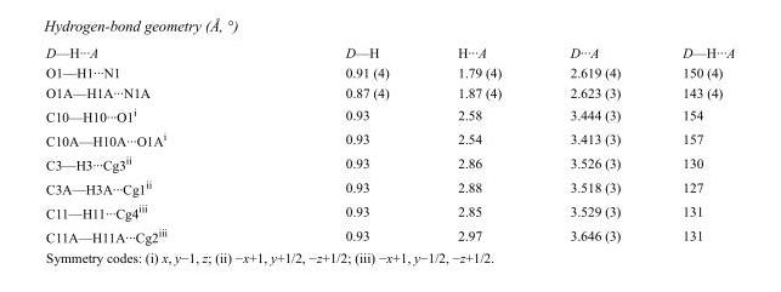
<table><tbody><tr><td>D—H···A</td><td>D—H</td><td>H···A</td><td>D···A</td><td>D—H···A</td></tr><tr><td>O1—H1···N1</td><td>0.91 (4)</td><td>1.79 (4)</td><td>2.619 (4)</td><td>150 (4)</td></tr><tr><td>O1A—H1A···N1A</td><td>0.87 (4)</td><td>1.87 (4)</td><td>2.623 (3)</td><td>143 (4)</td></tr><tr><td>C10—H10···O1<sup>i</sup></td><td>0.93</td><td>2.58</td><td>3.444 (3)</td><td>154</td></tr><tr><td>C10A—H10A···O1A<sup>i</sup></td><td>0.93</td><td>2.54</td><td>3.413 (3)</td><td>157</td></tr><tr><td>C3—H3···Cg3<sup>ii</sup></td><td>0.93</td><td>2.86</td><td>3.526 (3)</td><td>130</td></tr><tr><td>C3A—H3A···Cg1<sup>ii</sup></td><td>0.93</td><td>2.88</td><td>3.518 (3)</td><td>127</td></tr><tr><td>C11—H11···Cg4<sup>iii</sup></td><td>0.93</td><td>2.85</td><td>3.529 (3)</td><td>131</td></tr><tr><td>C11A—H11A···Cg2<sup>iii</sup></td><td>0.93</td><td>2.97</td><td>3.646 (3)</td><td>131</td></tr></tbody></table>